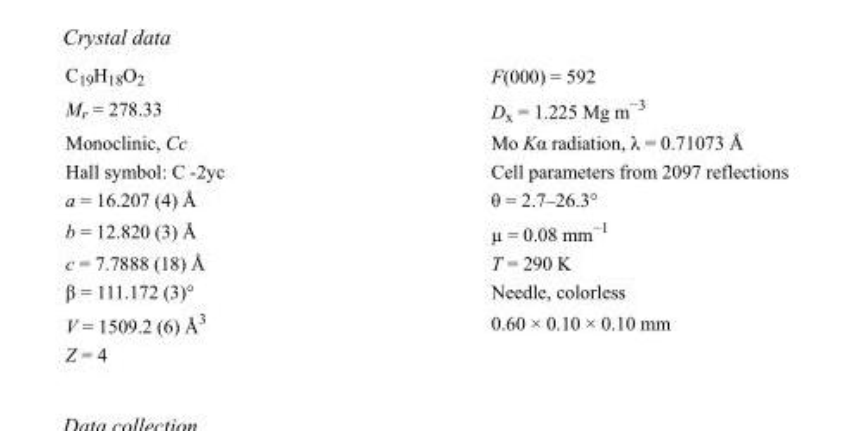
<table><tbody><tr><td>C<sub>19</sub>H<sub>18</sub>O<sub>2</sub></td><td>F(000) = 592</td></tr><tr><td>M<sub>r</sub> = 278.33</td><td>D<sub>x</sub> = 1.225 Mg m<sup>−3</sup></td></tr><tr><td>Monoclinic, Cc</td><td>Mo Kα radiation, λ = 0.71073 Å</td></tr><tr><td>Hall symbol: C -2yc</td><td>Cell parameters from 2097 reflections</td></tr><tr><td>a = 16.207 (4) Å</td><td>θ = 2.7–26.3°</td></tr><tr><td>b = 12.820 (3) Å</td><td>µ = 0.08 mm<sup>−1</sup></td></tr><tr><td>c = 7.7888 (18) Å</td><td>T = 290 K</td></tr><tr><td>β = 111.172 (3)°</td><td>Needle, colorless</td></tr><tr><td>V = 1509.2 (6) Å<sup>3</sup></td><td>0.60 × 0.10 × 0.10 mm</td></tr><tr><td>Z = 4</td><td></td></tr></tbody></table>